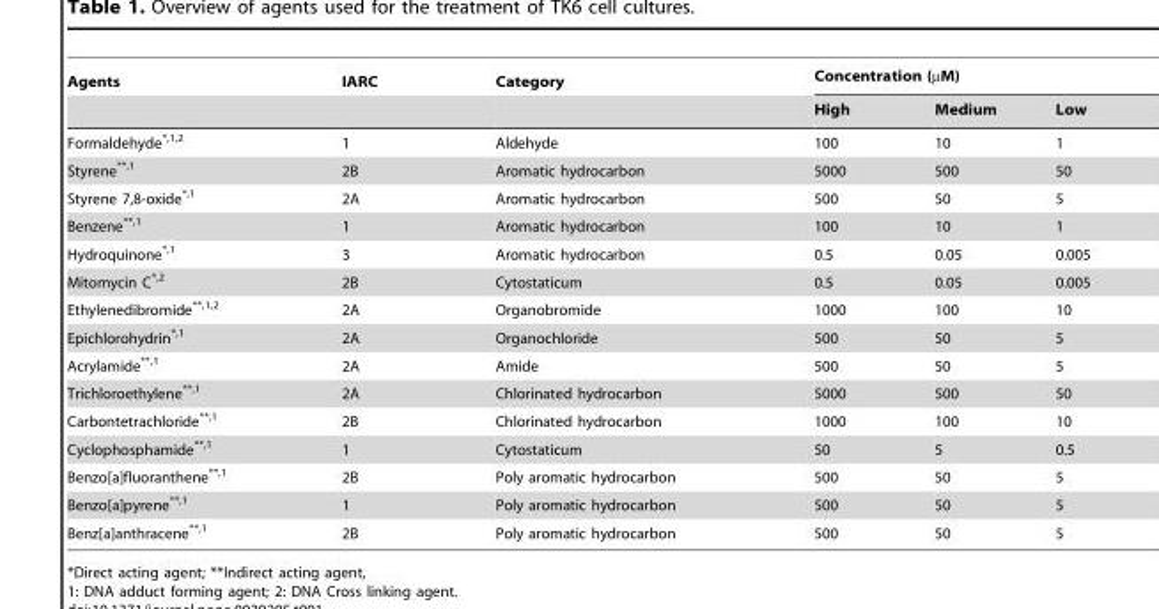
<table><thead><tr><td rowspan="2">Agents</td><td rowspan="2">IARC</td><td rowspan="2">Category</td><td colspan="3">Concentration (µM)</td></tr><tr><td>High</td><td>Medium</td><td>Low</td></tr></thead><tbody><tr><td>Formaldehyde*,1,2</td><td>1</td><td>Aldehyde</td><td>100</td><td>10</td><td>1</td></tr><tr><td>Styrene<sup>**,1</sup></td><td>2B</td><td>Aromatic hydrocarbon</td><td>5000</td><td>500</td><td>50</td></tr><tr><td>Styrene 7,8-oxide*,1</td><td>2A</td><td>Aromatic hydrocarbon</td><td>500</td><td>50</td><td>5</td></tr><tr><td>Benzene<sup>**,1</sup></td><td>1</td><td>Aromatic hydrocarbon</td><td>100</td><td>10</td><td>1</td></tr><tr><td>Hydroquinone*,1</td><td>3</td><td>Aromatic hydrocarbon</td><td>0.5</td><td>0.05</td><td>0.005</td></tr><tr><td>Mitomycin C*,2</td><td>2B</td><td>Cytostaticum</td><td>0.5</td><td>0.05</td><td>0.005</td></tr><tr><td>Ethylenedibromide<sup>**,1,2</sup></td><td>2A</td><td>Organobromide</td><td>1000</td><td>100</td><td>10</td></tr><tr><td>Epichlorohydrin*,1</td><td>2A</td><td>Organochloride</td><td>500</td><td>50</td><td>5</td></tr><tr><td>Acrylamide<sup>**,1</sup></td><td>2A</td><td>Amide</td><td>500</td><td>50</td><td>5</td></tr><tr><td>Trichloroethylene<sup>**,1</sup></td><td>2A</td><td>Chlorinated hydrocarbon</td><td>5000</td><td>500</td><td>50</td></tr><tr><td>Carbontetrachloride<sup>**,1</sup></td><td>2B</td><td>Chlorinated hydrocarbon</td><td>1000</td><td>100</td><td>10</td></tr><tr><td>Cyclophosphamide<sup>**,1</sup></td><td>1</td><td>Cytostaticum</td><td>50</td><td>5</td><td>0.5</td></tr><tr><td>Benzo[a]fluoranthene<sup>**,1</sup></td><td>2B</td><td>Poly aromatic hydrocarbon</td><td>500</td><td>50</td><td>5</td></tr><tr><td>Benzo[a]pyrene<sup>**,1</sup></td><td>1</td><td>Poly aromatic hydrocarbon</td><td>500</td><td>50</td><td>5</td></tr><tr><td>Benz[a]anthracene<sup>**,1</sup></td><td>2B</td><td>Poly aromatic hydrocarbon</td><td>500</td><td>50</td><td>5</td></tr></tbody></table>